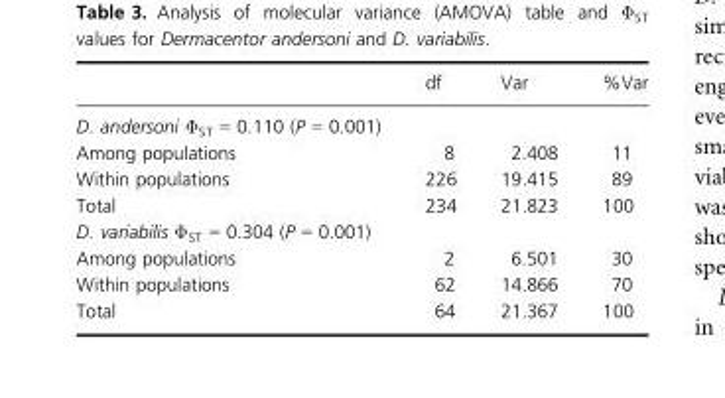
<table><thead><tr><td></td><td>df</td><td>Var</td><td>%Var</td></tr></thead><tbody><tr><td colspan="4">D. andersoni Φ<sub>ST</sub> = 0.110 (P = 0.001)</td></tr><tr><td>Among populations</td><td>8</td><td>2.408</td><td>11</td></tr><tr><td>Within populations</td><td>226</td><td>19.415</td><td>89</td></tr><tr><td>Total</td><td>234</td><td>21.823</td><td>100</td></tr><tr><td colspan="4">D. variabilis Φ<sub>ST</sub> = 0.304 (P = 0.001)</td></tr><tr><td>Among populations</td><td>2</td><td>6.501</td><td>30</td></tr><tr><td>Within populations</td><td>62</td><td>14.866</td><td>70</td></tr><tr><td>Total</td><td>64</td><td>21.367</td><td>100</td></tr></tbody></table>